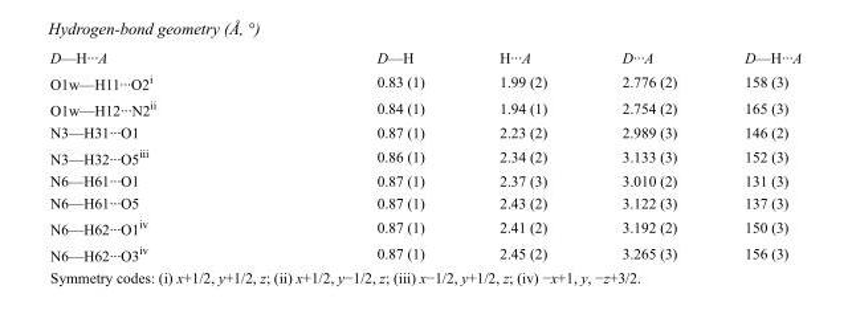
<table><tbody><tr><td>D—H···A</td><td>D—H</td><td>H···A</td><td>D···A</td><td>D—H···A</td></tr><tr><td>O1w—H11···O2<sup>i</sup></td><td>0.83 (1)</td><td>1.99 (2)</td><td>2.776 (2)</td><td>158 (3)</td></tr><tr><td>O1w—H12···N2<sup>ii</sup></td><td>0.84 (1)</td><td>1.94 (1)</td><td>2.754 (2)</td><td>165 (3)</td></tr><tr><td>N3—H31···O1</td><td>0.87 (1)</td><td>2.23 (2)</td><td>2.989 (3)</td><td>146 (2)</td></tr><tr><td>N3—H32···O5<sup>iii</sup></td><td>0.86 (1)</td><td>2.34 (2)</td><td>3.133 (3)</td><td>152 (3)</td></tr><tr><td>N6—H61···O1</td><td>0.87 (1)</td><td>2.37 (3)</td><td>3.010 (2)</td><td>131 (3)</td></tr><tr><td>N6—H61···O5</td><td>0.87 (1)</td><td>2.43 (2)</td><td>3.122 (3)</td><td>137 (3)</td></tr><tr><td>N6—H62···O1<sup>iv</sup></td><td>0.87 (1)</td><td>2.41 (2)</td><td>3.192 (2)</td><td>150 (3)</td></tr><tr><td>N6—H62···O3<sup>iv</sup></td><td>0.87 (1)</td><td>2.45 (2)</td><td>3.265 (3)</td><td>156 (3)</td></tr></tbody></table>